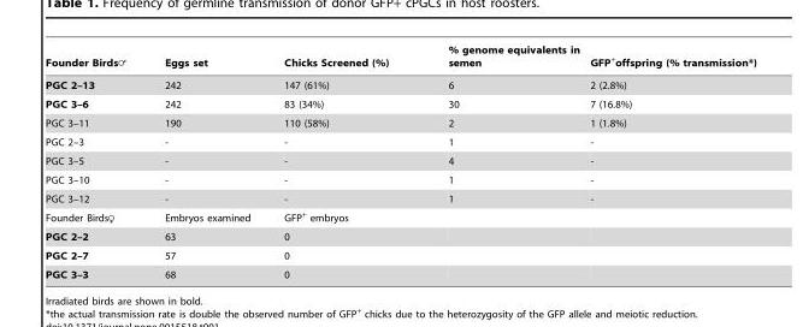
<table><thead><tr><td>Founder Birds=</td><td>Eggs set</td><td>Chicks Screened (%)</td><td>% genome equivalents in semen</td><td>GFP<sup>+</sup>offspring (% transmission*)</td></tr></thead><tbody><tr><td>PGC 2–13</td><td>242</td><td>147 (61%)</td><td>6</td><td>2 (2.8%)</td></tr><tr><td>PGC 3–6</td><td>242</td><td>83 (34%)</td><td>30</td><td>7 (16.8%)</td></tr><tr><td>PGC 3–11</td><td>190</td><td>110 (58%)</td><td>2</td><td>1 (1.8%)</td></tr><tr><td>PGC 2–3</td><td>-</td><td>-</td><td>1</td><td>-</td></tr><tr><td>PGC 3–5</td><td>-</td><td>-</td><td>4</td><td>-</td></tr><tr><td>PGC 3–10</td><td>-</td><td>-</td><td>1</td><td>-</td></tr><tr><td>PGC 3–12</td><td>-</td><td>-</td><td>1</td><td>-</td></tr><tr><td>Founder Birds♀</td><td>Embryos examined</td><td>GFP<sup>+</sup> embryos</td><td></td><td></td></tr><tr><td>PGC 2–2</td><td>63</td><td>0</td><td></td><td></td></tr><tr><td>PGC 2–7</td><td>57</td><td>0</td><td></td><td></td></tr><tr><td>PGC 3–3</td><td>68</td><td>0</td><td></td><td></td></tr></tbody></table>